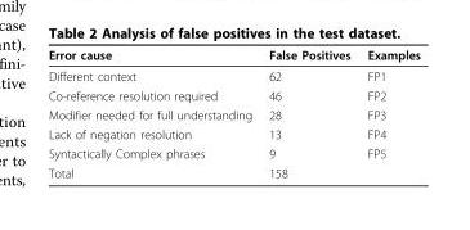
<table><thead><tr><td>Error cause</td><td>False Positives</td><td>Examples</td></tr></thead><tbody><tr><td>Different context</td><td>62</td><td>FP1</td></tr><tr><td>Co-reference resolution required</td><td>46</td><td>FP2</td></tr><tr><td>Modifier needed for full understanding</td><td>28</td><td>FP3</td></tr><tr><td>Lack of negation resolution</td><td>13</td><td>FP4</td></tr><tr><td>Syntactically Complex phrases</td><td>9</td><td>FP5</td></tr><tr><td>Total</td><td>158</td><td></td></tr></tbody></table>